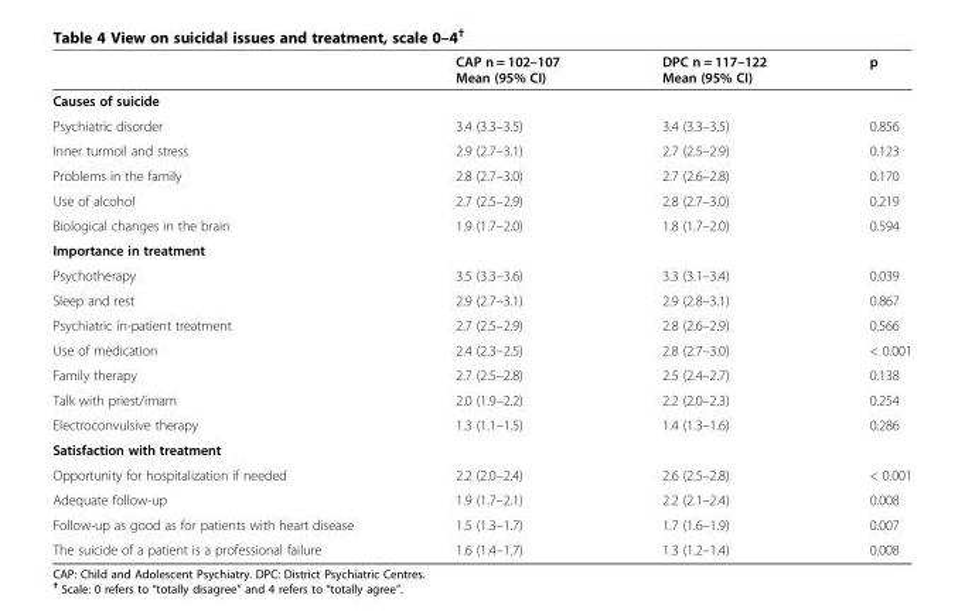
<table><thead><tr><td></td><td>CAP n = 102–107 Mean (95% CI)</td><td>DPC n = 117–122 Mean (95% CI)</td><td>p</td></tr></thead><tbody><tr><td colspan="4">Causes of suicide</td></tr><tr><td>Psychiatric disorder</td><td>3.4 (3.3–3.5)</td><td>3.4 (3.3–3.5)</td><td>0.856</td></tr><tr><td>Inner turmoil and stress</td><td>2.9 (2.7–3.1)</td><td>2.7 (2.5–2.9)</td><td>0.123</td></tr><tr><td>Problems in the family</td><td>2.8 (2.7–3.0)</td><td>2.7 (2.6–2.8)</td><td>0.170</td></tr><tr><td>Use of alcohol</td><td>2.7 (2.5–2.9)</td><td>2.8 (2.7–3.0)</td><td>0.219</td></tr><tr><td>Biological changes in the brain</td><td>1.9 (1.7–2.0)</td><td>1.8 (1.7–2.0)</td><td>0.594</td></tr><tr><td colspan="4">Importance in treatment</td></tr><tr><td>Psychotherapy</td><td>3.5 (3.3–3.6)</td><td>3.3 (3.1–3.4)</td><td>0.039</td></tr><tr><td>Sleep and rest</td><td>2.9 (2.7–3.1)</td><td>2.9 (2.8–3.1)</td><td>0.867</td></tr><tr><td>Psychiatric in-patient treatment</td><td>2.7 (2.5–2.9)</td><td>2.8 (2.6–2.9)</td><td>0.566</td></tr><tr><td>Use of medication</td><td>2.4 (2.3–2.5)</td><td>2.8 (2.7–3.0)</td><td>&lt; 0.001</td></tr><tr><td>Family therapy</td><td>2.7 (2.5–2.8)</td><td>2.5 (2.4–2.7)</td><td>0.138</td></tr><tr><td>Talk with priest/imam</td><td>2.0 (1.9–2.2)</td><td>2.2 (2.0–2.3)</td><td>0.254</td></tr><tr><td>Electroconvulsive therapy</td><td>1.3 (1.1–1.5)</td><td>1.4 (1.3–1.6)</td><td>0.286</td></tr><tr><td colspan="4">Satisfaction with treatment</td></tr><tr><td>Opportunity for hospitalization if needed</td><td>2.2 (2.0–2.4)</td><td>2.6 (2.5–2.8)</td><td>&lt; 0.001</td></tr><tr><td>Adequate follow-up</td><td>1.9 (1.7–2.1)</td><td>2.2 (2.1–2.4)</td><td>0.008</td></tr><tr><td>Follow-up as good as for patients with heart disease</td><td>1.5 (1.3–1.7)</td><td>1.7 (1.6–1.9)</td><td>0.007</td></tr><tr><td>The suicide of a patient is a professional failure</td><td>1.6 (1.4–1.7)</td><td>1.3 (1.2–1.4)</td><td>0.008</td></tr></tbody></table>